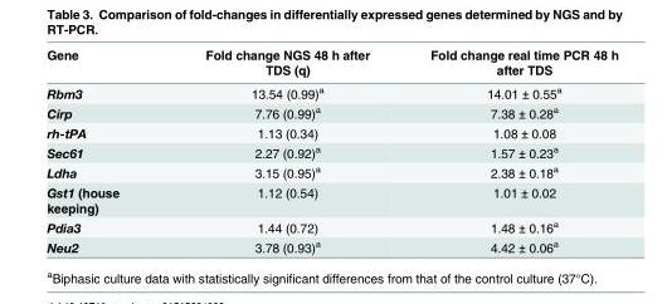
<table><thead><tr><td>Gene</td><td>Fold change NGS 48 h after TDS (q)</td><td>Fold change real time PCR 48 h after TDS</td></tr></thead><tbody><tr><td>Rbm3</td><td>13.54 (0.99)<sup>a</sup></td><td>14.01 ± 0.55<sup>a</sup></td></tr><tr><td>Cirp</td><td>7.76 (0.99)<sup>a</sup></td><td>7.38 ± 0.28<sup>a</sup></td></tr><tr><td>rh-tPA</td><td>1.13 (0.34)</td><td>1.08 ± 0.08</td></tr><tr><td>Sec61</td><td>2.27 (0.92)<sup>a</sup></td><td>1.57 ± 0.23<sup>a</sup></td></tr><tr><td>Ldha</td><td>3.15 (0.95)<sup>a</sup></td><td>2.38 ± 0.18<sup>a</sup></td></tr><tr><td>Gst1 (house keeping)</td><td>1.12 (0.54)</td><td>1.01 ± 0.02</td></tr><tr><td>Pdia3</td><td>1.44 (0.72)</td><td>1.48 ± 0.16<sup>a</sup></td></tr><tr><td>Neu2</td><td>3.78 (0.93)<sup>a</sup></td><td>4.42 ± 0.06<sup>a</sup></td></tr></tbody></table>